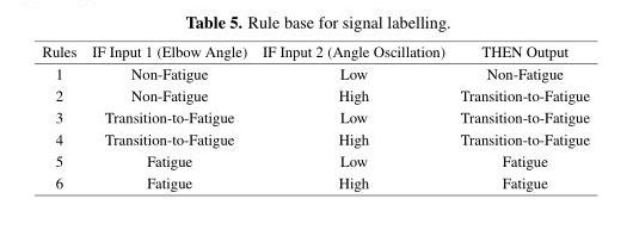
<table><thead><tr><td>Rules</td><td>IF Input 1 (Elbow Angle)</td><td>IF Input 2 (Angle Oscillation)</td><td>THEN Output</td></tr></thead><tbody><tr><td>1</td><td>Non-Fatigue</td><td>Low</td><td>Non-Fatigue</td></tr><tr><td>2</td><td>Non-Fatigue</td><td>High</td><td>Transition-to-Fatigue</td></tr><tr><td>3</td><td>Transition-to-Fatigue</td><td>Low</td><td>Transition-to-Fatigue</td></tr><tr><td>4</td><td>Transition-to-Fatigue</td><td>High</td><td>Transition-to-Fatigue</td></tr><tr><td>5</td><td>Fatigue</td><td>Low</td><td>Fatigue</td></tr><tr><td>6</td><td>Fatigue</td><td>High</td><td>Fatigue</td></tr></tbody></table>